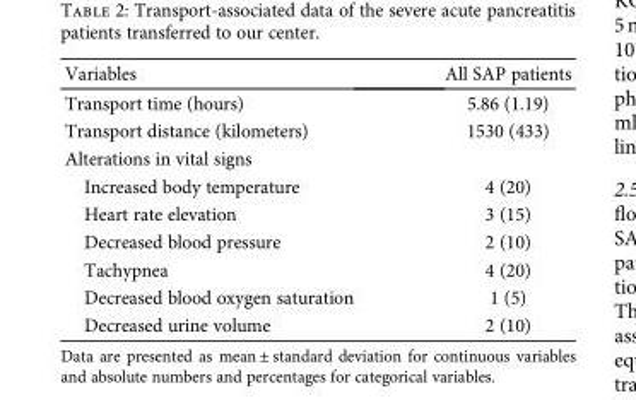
<table><thead><tr><td>Variables</td><td>All SAP patients</td></tr></thead><tbody><tr><td>Transport time (hours)</td><td>5.86 (1.19)</td></tr><tr><td>Transport distance (kilometers)</td><td>1530 (433)</td></tr><tr><td colspan="2">Alterations in vital signs</td></tr><tr><td>Increased body temperature</td><td>4 (20)</td></tr><tr><td>Heart rate elevation</td><td>3 (15)</td></tr><tr><td>Decreased blood pressure</td><td>2 (10)</td></tr><tr><td>Tachypnea</td><td>4 (20)</td></tr><tr><td>Decreased blood oxygen saturation</td><td>1 (5)</td></tr><tr><td>Decreased urine volume</td><td>2 (10)</td></tr></tbody></table>